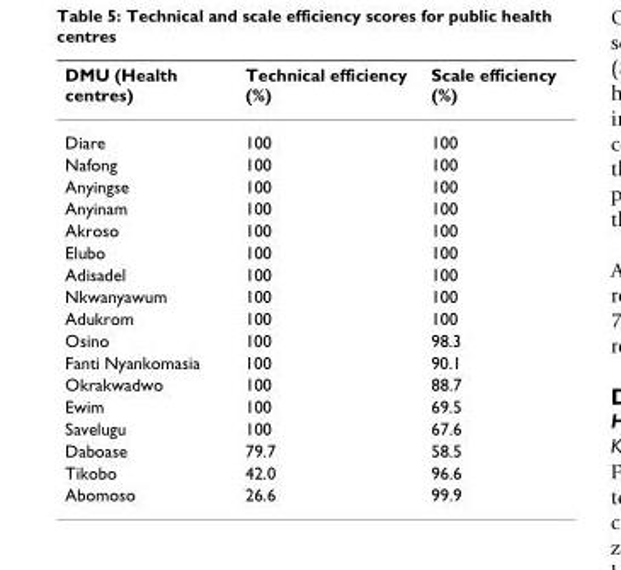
<table><thead><tr><td>DMU (Health centres)</td><td>Technical efficiency (%)</td><td>Scale efficiency (%)</td></tr></thead><tbody><tr><td>Diare</td><td>100</td><td>100</td></tr><tr><td>Nafong</td><td>100</td><td>100</td></tr><tr><td>Anyingse</td><td>100</td><td>100</td></tr><tr><td>Anyinam</td><td>100</td><td>100</td></tr><tr><td>Akroso</td><td>100</td><td>100</td></tr><tr><td>Elubo</td><td>100</td><td>100</td></tr><tr><td>Adisadel</td><td>100</td><td>100</td></tr><tr><td>Nkwanyawum</td><td>100</td><td>100</td></tr><tr><td>Adukrom</td><td>100</td><td>100</td></tr><tr><td>Osino</td><td>100</td><td>98.3</td></tr><tr><td>Fanti Nyankomasia</td><td>100</td><td>90.1</td></tr><tr><td>Okrakwadwo</td><td>100</td><td>88.7</td></tr><tr><td>Ewim</td><td>100</td><td>69.5</td></tr><tr><td>Savelugu</td><td>100</td><td>67.6</td></tr><tr><td>Daboase</td><td>79.7</td><td>58.5</td></tr><tr><td>Tikobo</td><td>42.0</td><td>96.6</td></tr><tr><td>Abomoso</td><td>26.6</td><td>99.9</td></tr></tbody></table>